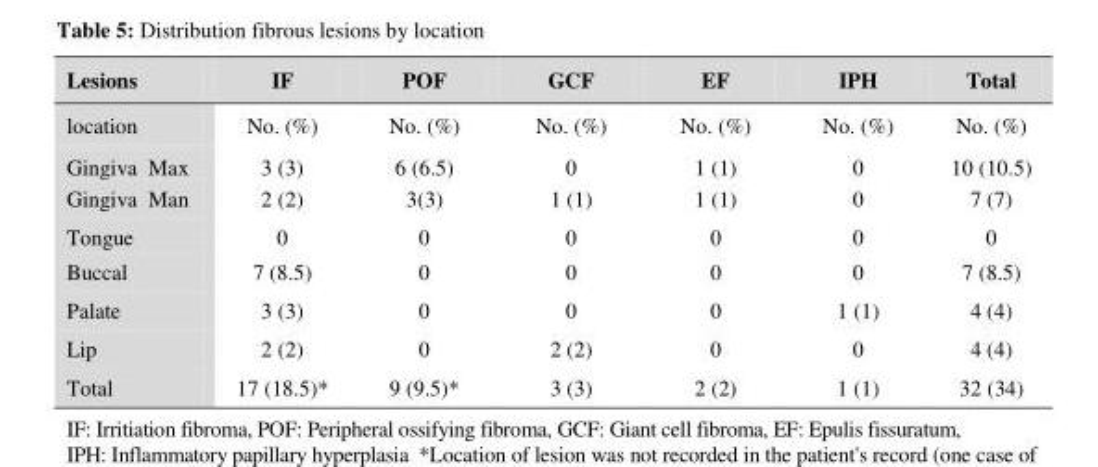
<table><thead><tr><td>Lesions</td><td>IF</td><td>POF</td><td>GCF</td><td>EF</td><td>IPH</td><td>Total</td></tr></thead><tbody><tr><td>location</td><td>No. (%)</td><td>No. (%)</td><td>No. (%)</td><td>No. (%)</td><td>No. (%)</td><td>No. (%)</td></tr><tr><td>Gingiva Max</td><td>3 (3)</td><td>6 (6.5)</td><td>0</td><td>1 (1)</td><td>0</td><td>10 (10.5)</td></tr><tr><td>Gingiva Man</td><td>2 (2)</td><td>3(3)</td><td>1 (1)</td><td>1 (1)</td><td>0</td><td>7 (7)</td></tr><tr><td>Tongue</td><td>0</td><td>0</td><td>0</td><td>0</td><td>0</td><td>0</td></tr><tr><td>Buccal</td><td>7 (8.5)</td><td>0</td><td>0</td><td>0</td><td>0</td><td>7 (8.5)</td></tr><tr><td>Palate</td><td>3 (3)</td><td>0</td><td>0</td><td>0</td><td>1 (1)</td><td>4 (4)</td></tr><tr><td>Lip</td><td>2 (2)</td><td>0</td><td>2 (2)</td><td>0</td><td>0</td><td>4 (4)</td></tr><tr><td>Total</td><td>17 (18.5)*</td><td>9 (9.5)*</td><td>3 (3)</td><td>2 (2)</td><td>1 (1)</td><td>32 (34)</td></tr></tbody></table>